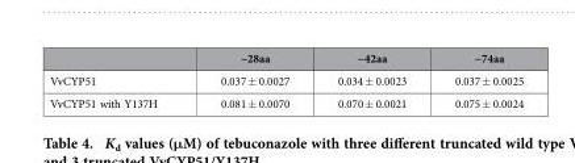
<table><thead><tr><td></td><td>−28aa</td><td>−42aa</td><td>−74aa</td></tr></thead><tbody><tr><td>VvCYP51</td><td>0.037 ± 0.0027</td><td>0.034 ± 0.0023</td><td>0.037 ± 0.0025</td></tr><tr><td>VvCYP51 with Y137H</td><td>0.081 ± 0.0070</td><td>0.070 ± 0.0021</td><td>0.075 ± 0.0024</td></tr></tbody></table>